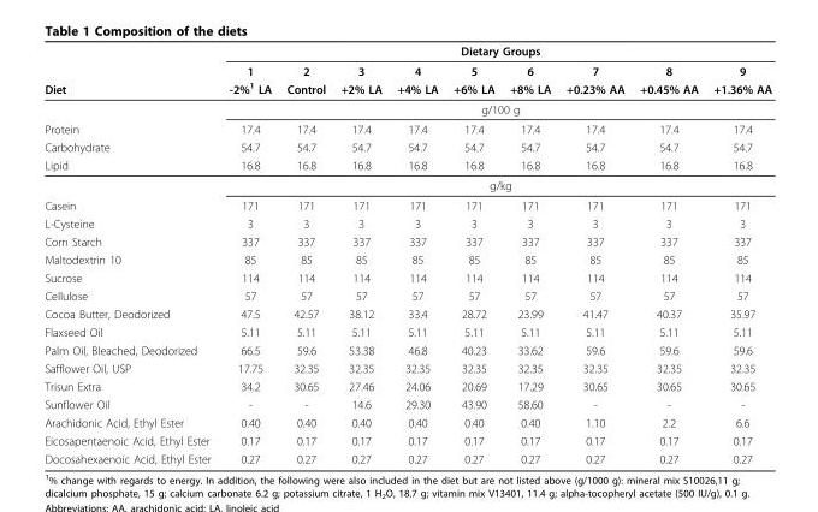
<table><thead><tr><td rowspan="3">Diet</td><td colspan="9">Dietary Groups</td></tr><tr><td rowspan="2">1 -2%1 LA</td><td rowspan="2">2 Control</td><td rowspan="2">3 +2% LA</td><td rowspan="2">4 +4% LA</td><td rowspan="2">5 +6% LA</td><td rowspan="2">6 +8% LA</td><td rowspan="2">7 +0.23% AA</td><td rowspan="2">8 +0.45% AA</td><td rowspan="2">9 +1.36% AA</td></tr><tr></tr></thead><tbody><tr><td></td><td colspan="9">g/100 g</td></tr><tr><td>Protein</td><td>17.4</td><td>17.4</td><td>17.4</td><td>17.4</td><td>17.4</td><td>17.4</td><td>17.4</td><td>17.4</td><td>17.4</td></tr><tr><td>Carbohydrate</td><td>54.7</td><td>54.7</td><td>54.7</td><td>54.7</td><td>54.7</td><td>54.7</td><td>54.7</td><td>54.7</td><td>54.7</td></tr><tr><td rowspan="2">Lipid</td><td>16.8</td><td>16.8</td><td>16.8</td><td>16.8</td><td>16.8</td><td>16.8</td><td>16.8</td><td>16.8</td><td>16.8</td></tr><tr><td colspan="9">g/kg</td></tr><tr><td>Casein</td><td>171</td><td>171</td><td>171</td><td>171</td><td>171</td><td>171</td><td>171</td><td>171</td><td>171</td></tr><tr><td>L-Cysteine</td><td>3</td><td>3</td><td>3</td><td>3</td><td>3</td><td>3</td><td>3</td><td>3</td><td>3</td></tr><tr><td>Corn Starch</td><td>337</td><td>337</td><td>337</td><td>337</td><td>337</td><td>337</td><td>337</td><td>337</td><td>337</td></tr><tr><td>Maltodextrin 10</td><td>85</td><td>85</td><td>85</td><td>85</td><td>85</td><td>85</td><td>85</td><td>85</td><td>85</td></tr><tr><td>Sucrose</td><td>114</td><td>114</td><td>114</td><td>114</td><td>114</td><td>114</td><td>114</td><td>114</td><td>114</td></tr><tr><td>Cellulose</td><td>57</td><td>57</td><td>57</td><td>57</td><td>57</td><td>57</td><td>57</td><td>57</td><td>57</td></tr><tr><td>Cocoa Butter, Deodorized</td><td>47.5</td><td>42.57</td><td>38.12</td><td>33.4</td><td>28.72</td><td>23.99</td><td>41.47</td><td>40.37</td><td>35.97</td></tr><tr><td>Flaxseed Oil</td><td>5.11</td><td>5.11</td><td>5.11</td><td>5.11</td><td>5.11</td><td>5.11</td><td>5.11</td><td>5.11</td><td>5.11</td></tr><tr><td>Palm Oil, Bleached, Deodorized</td><td>66.5</td><td>59.6</td><td>53.38</td><td>46.8</td><td>40.23</td><td>33.62</td><td>59.6</td><td>59.6</td><td>59.6</td></tr><tr><td>Safflower Oil, USP</td><td>17.75</td><td>32.35</td><td>32.35</td><td>32.35</td><td>32.35</td><td>32.35</td><td>32.35</td><td>32.35</td><td>32.35</td></tr><tr><td>Trisun Extra</td><td>34.2</td><td>30.65</td><td>27.46</td><td>24.06</td><td>20.69</td><td>17.29</td><td>30.65</td><td>30.65</td><td>30.65</td></tr><tr><td>Sunflower Oil</td><td>-</td><td>-</td><td>14.6</td><td>29.30</td><td>43.90</td><td>58.60</td><td>-</td><td>-</td><td>-</td></tr><tr><td>Arachidonic Acid, Ethyl Ester</td><td>0.40</td><td>0.40</td><td>0.40</td><td>0.40</td><td>0.40</td><td>0.40</td><td>1.10</td><td>2.2</td><td>6.6</td></tr><tr><td>Eicosapentaenoic Acid, Ethyl Ester</td><td>0.17</td><td>0.17</td><td>0.17</td><td>0.17</td><td>0.17</td><td>0.17</td><td>0.17</td><td>0.17</td><td>0.17</td></tr><tr><td>Docosahexaenoic Acid, Ethyl Ester</td><td>0.27</td><td>0.27</td><td>0.27</td><td>0.27</td><td>0.27</td><td>0.27</td><td>0.27</td><td>0.27</td><td>0.27</td></tr></tbody></table>